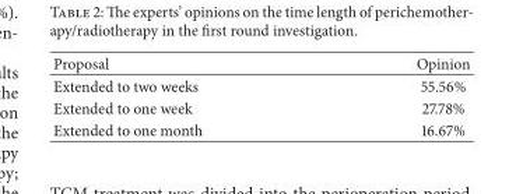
<table><thead><tr><td>Proposal</td><td>Opinion</td></tr></thead><tbody><tr><td>Extended to two weeks</td><td>55.56%</td></tr><tr><td>Extended to one week</td><td>27.78%</td></tr><tr><td>Extended to one month</td><td>16.67%</td></tr></tbody></table>